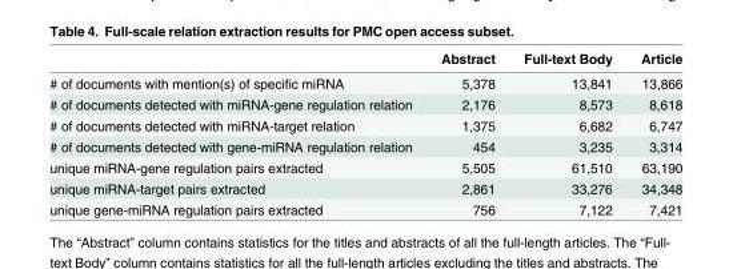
<table><thead><tr><td></td><td>Abstract</td><td>Full-text Body</td><td>Article</td></tr></thead><tbody><tr><td># of documents with mention(s) of specific miRNA</td><td>5,378</td><td>13,841</td><td>13,866</td></tr><tr><td># of documents detected with miRNA-gene regulation relation</td><td>2,176</td><td>8,573</td><td>8,618</td></tr><tr><td># of documents detected with miRNA-target relation</td><td>1,375</td><td>6,682</td><td>6,747</td></tr><tr><td># of documents detected with gene-miRNA regulation relation</td><td>454</td><td>3,235</td><td>3,314</td></tr><tr><td>unique miRNA-gene regulation pairs extracted</td><td>5,505</td><td>61,510</td><td>63,190</td></tr><tr><td>unique miRNA-target pairs extracted</td><td>2,861</td><td>33,276</td><td>34,348</td></tr><tr><td>unique gene-miRNA regulation pairs extracted</td><td>756</td><td>7,122</td><td>7,421</td></tr></tbody></table>